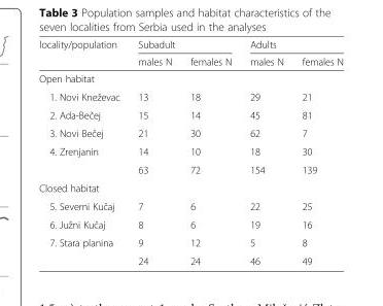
<table><thead><tr><td rowspan="2">locality/population</td><td colspan="2">Subadult</td><td colspan="2">Adults</td></tr><tr><td>males N</td><td>females N</td><td>males N</td><td>females N</td></tr></thead><tbody><tr><td colspan="5">Open habitat</td></tr><tr><td>1. Novi Kneževac</td><td>13</td><td>18</td><td>29</td><td>21</td></tr><tr><td>2. Ada-Bečej</td><td>15</td><td>14</td><td>45</td><td>81</td></tr><tr><td>3. Novi Bečej</td><td>21</td><td>30</td><td>62</td><td>7</td></tr><tr><td rowspan="2">4. Zrenjanin</td><td>14</td><td>10</td><td>18</td><td>30</td></tr><tr><td>63</td><td>72</td><td>154</td><td>139</td></tr><tr><td colspan="5">Closed habitat</td></tr><tr><td>5. Severni Kučaj</td><td>7</td><td>6</td><td>22</td><td>25</td></tr><tr><td>6. Južni Kučaj</td><td>8</td><td>6</td><td>19</td><td>16</td></tr><tr><td rowspan="2">7. Stara planina</td><td>9</td><td>12</td><td>5</td><td>8</td></tr><tr><td>24</td><td>24</td><td>46</td><td>49</td></tr></tbody></table>